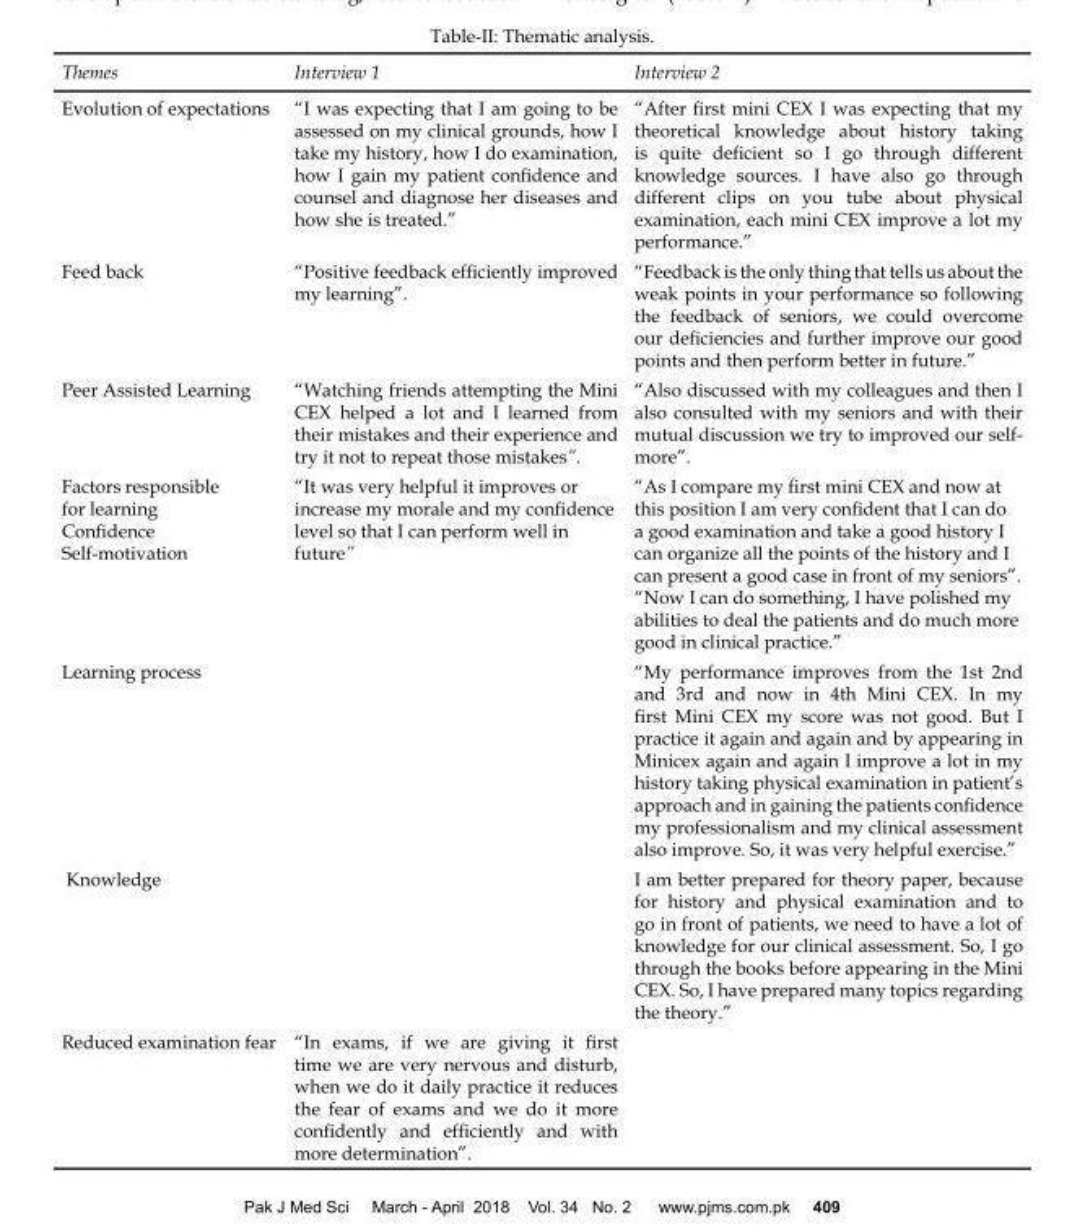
<table><thead><tr><td>Themes</td><td>Interview 1</td><td>Interview 2</td></tr></thead><tbody><tr><td>Evolution of expectations</td><td>“I was expecting that I am going to be assessed on my clinical grounds, how I take my history, how I do examination, how I gain my patient confidence and counsel and diagnose her diseases and how she is treated.”</td><td>“After first mini CEX I was expecting that my theoretical knowledge about history taking is quite deficient so I go through different knowledge sources. I have also go through different clips on you tube about physical examination, each mini CEX improve a lot my performance.”</td></tr><tr><td>Feed back</td><td>“Positive feedback efficiently improved my learning”.</td><td>“Feedback is the only thing that tells us about the weak points in your performance so following the feedback of seniors, we could overcome our deficiencies and further improve our good points and then perform better in future.”</td></tr><tr><td>Peer Assisted Learning</td><td>“Watching friends attempting the Mini CEX helped a lot and I learned from their mistakes and their experience and try it not to repeat those mistakes”.</td><td>“Also discussed with my colleagues and then I also consulted with my seniors and with their mutual discussion we try to improved our self- more”.</td></tr><tr><td>Factors responsible for learning Confidence Self-motivation</td><td>“It was very helpful it improves or increase my morale and my confidence level so that I can perform well in future”</td><td>“As I compare my first mini CEX and now at this position I am very confident that I can do a good examination and take a good history I can organize all the points of the history and I can present a good case in front of my seniors”. “Now I can do something, I have polished my abilities to deal the patients and do much more good in clinical practice.”</td></tr><tr><td>Learning process</td><td></td><td>“My performance improves from the 1st 2nd and 3rd and now in 4th Mini CEX. In my first Mini CEX my score was not good. But I practice it again and again and by appearing in Minicex again and again I improve a lot in my history taking physical examination in patient’s approach and in gaining the patients confidence my professionalism and my clinical assessment also improve. So, it was very helpful exercise.”</td></tr><tr><td>Knowledge</td><td></td><td>I am better prepared for theory paper, because for history and physical examination and to go in front of patients, we need to have a lot of knowledge for our clinical assessment. So, I go through the books before appearing in the Mini CEX. So, I have prepared many topics regarding the theory.”</td></tr><tr><td>Reduced examination fear</td><td>“In exams, if we are giving it first time we are very nervous and disturb, when we do it daily practice it reduces the fear of exams and we do it more confidently and efficiently and with more determination”.</td><td></td></tr></tbody></table>